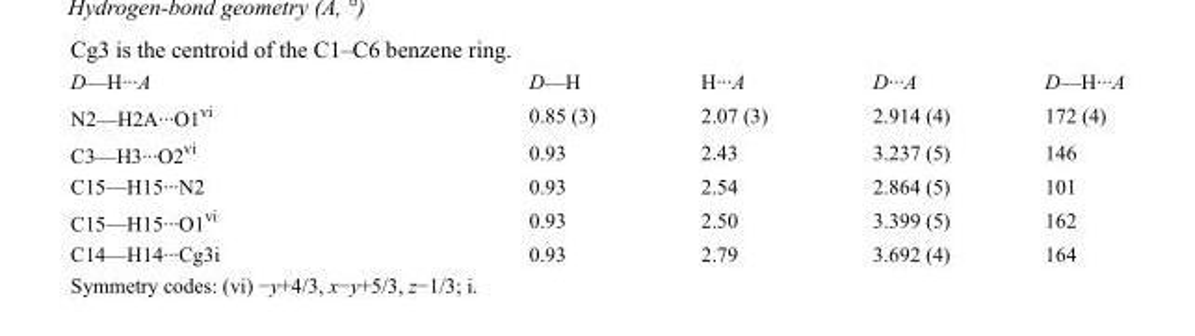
<table><tbody><tr><td>D—H···A</td><td>D—H</td><td>H···A</td><td>D···A</td><td>D—H···A</td></tr><tr><td>N2—H2A···O1<sup>vi</sup></td><td>0.85 (3)</td><td>2.07 (3)</td><td>2.914 (4)</td><td>172 (4)</td></tr><tr><td>C3—H3···O2<sup>vi</sup></td><td>0.93</td><td>2.43</td><td>3.237 (5)</td><td>146</td></tr><tr><td>C15—H15···N2</td><td>0.93</td><td>2.54</td><td>2.864 (5)</td><td>101</td></tr><tr><td>C15—H15···O1<sup>vi</sup></td><td>0.93</td><td>2.50</td><td>3.399 (5)</td><td>162</td></tr><tr><td>C14—H14···Cg3i</td><td>0.93</td><td>2.79</td><td>3.692 (4)</td><td>164</td></tr></tbody></table>